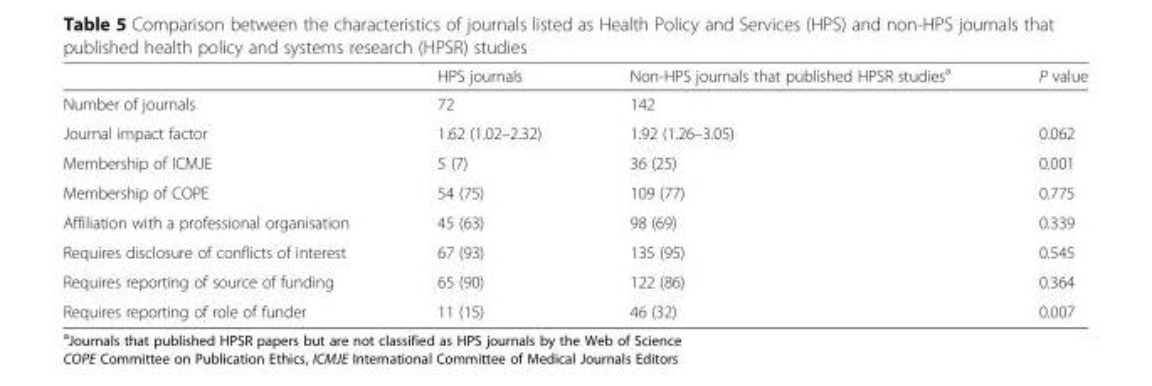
<table><thead><tr><td></td><td>HPS journals</td><td>Non-HPS journals that published HPSR studies<sup>a</sup></td><td>P value</td></tr></thead><tbody><tr><td>Number of journals</td><td>72</td><td>142</td><td></td></tr><tr><td>Journal impact factor</td><td>1.62 (1.02–2.32)</td><td>1.92 (1.26–3.05)</td><td>0.062</td></tr><tr><td>Membership of ICMJE</td><td>5 (7)</td><td>36 (25)</td><td>0.001</td></tr><tr><td>Membership of COPE</td><td>54 (75)</td><td>109 (77)</td><td>0.775</td></tr><tr><td>Affiliation with a professional organisation</td><td>45 (63)</td><td>98 (69)</td><td>0.339</td></tr><tr><td>Requires disclosure of conflicts of interest</td><td>67 (93)</td><td>135 (95)</td><td>0.545</td></tr><tr><td>Requires reporting of source of funding</td><td>65 (90)</td><td>122 (86)</td><td>0.364</td></tr><tr><td>Requires reporting of role of funder</td><td>11 (15)</td><td>46 (32)</td><td>0.007</td></tr></tbody></table>